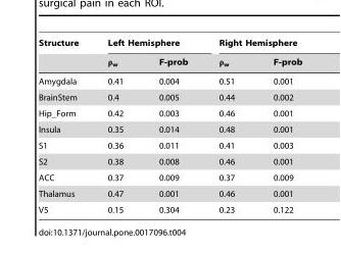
<table><thead><tr><td rowspan="2">Structure</td><td colspan="2">Left Hemisphere</td><td colspan="2">Right Hemisphere</td></tr><tr><td>ρ<sub>w</sub></td><td>F-prob</td><td>ρ<sub>w</sub></td><td>F-prob</td></tr></thead><tbody><tr><td>Amygdala</td><td>0.41</td><td>0.004</td><td>0.51</td><td>0.001</td></tr><tr><td>BrainStem</td><td>0.4</td><td>0.005</td><td>0.44</td><td>0.002</td></tr><tr><td>Hip_Form</td><td>0.42</td><td>0.003</td><td>0.46</td><td>0.001</td></tr><tr><td>Insula</td><td>0.35</td><td>0.014</td><td>0.48</td><td>0.001</td></tr><tr><td>S1</td><td>0.36</td><td>0.011</td><td>0.41</td><td>0.003</td></tr><tr><td>S2</td><td>0.38</td><td>0.008</td><td>0.46</td><td>0.001</td></tr><tr><td>ACC</td><td>0.37</td><td>0.009</td><td>0.37</td><td>0.009</td></tr><tr><td>Thalamus</td><td>0.47</td><td>0.001</td><td>0.46</td><td>0.001</td></tr><tr><td>V5</td><td>0.15</td><td>0.304</td><td>0.23</td><td>0.122</td></tr></tbody></table>